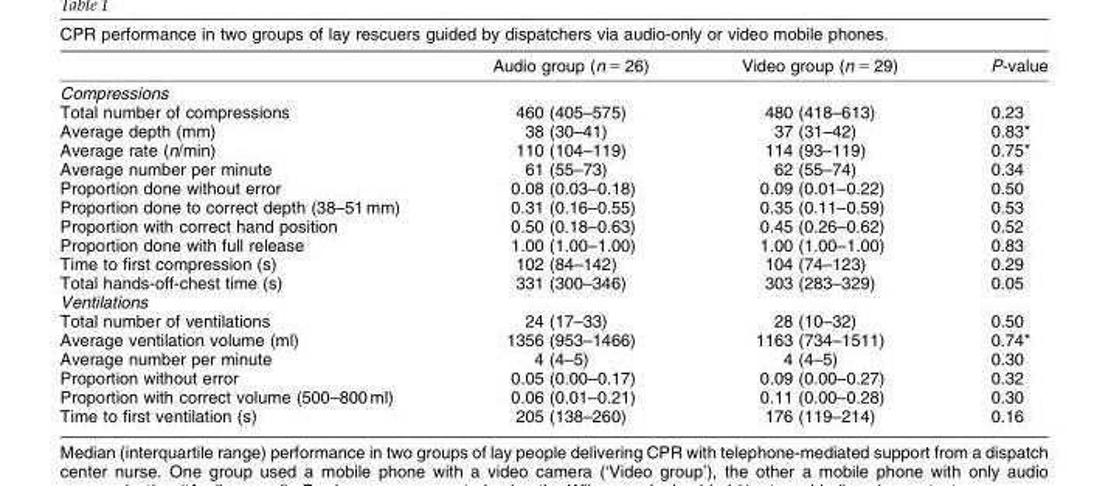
<table><thead><tr><td></td><td>Audio group (n = 26)</td><td>Video group (n = 29)</td><td>P-value</td></tr></thead><tbody><tr><td colspan="4">Compressions</td></tr><tr><td>Total number of compressions</td><td>460 (405–575)</td><td>480 (418–613)</td><td>0.23</td></tr><tr><td>Average depth (mm)</td><td>38 (30–41)</td><td>37 (31–42)</td><td>0.83*</td></tr><tr><td>Average rate (n/min)</td><td>110 (104–119)</td><td>114 (93–119)</td><td>0.75*</td></tr><tr><td>Average number per minute</td><td>61 (55–73)</td><td>62 (55–74)</td><td>0.34</td></tr><tr><td>Proportion done without error</td><td>0.08 (0.03–0.18)</td><td>0.09 (0.01–0.22)</td><td>0.50</td></tr><tr><td>Proportion done to correct depth (38–51 mm)</td><td>0.31 (0.16–0.55)</td><td>0.35 (0.11–0.59)</td><td>0.53</td></tr><tr><td>Proportion with correct hand position</td><td>0.50 (0.18–0.63)</td><td>0.45 (0.26–0.62)</td><td>0.52</td></tr><tr><td>Proportion done with full release</td><td>1.00 (1.00–1.00)</td><td>1.00 (1.00–1.00)</td><td>0.83</td></tr><tr><td>Time to first compression (s)</td><td>102 (84–142)</td><td>104 (74–123)</td><td>0.29</td></tr><tr><td>Total hands-off-chest time (s)</td><td>331 (300–346)</td><td>303 (283–329)</td><td>0.05</td></tr><tr><td colspan="4">Ventilations</td></tr><tr><td>Total number of ventilations</td><td>24 (17–33)</td><td>28 (10–32)</td><td>0.50</td></tr><tr><td>Average ventilation volume (ml)</td><td>1356 (953–1466)</td><td>1163 (734–1511)</td><td>0.74*</td></tr><tr><td>Average number per minute</td><td>4 (4–5)</td><td>4 (4–5)</td><td>0.30</td></tr><tr><td>Proportion without error</td><td>0.05 (0.00–0.17)</td><td>0.09 (0.00–0.27)</td><td>0.32</td></tr><tr><td>Proportion with correct volume (500–800 ml)</td><td>0.06 (0.01–0.21)</td><td>0.11 (0.00–0.28)</td><td>0.30</td></tr><tr><td>Time to first ventilation (s)</td><td>205 (138–260)</td><td>176 (119–214)</td><td>0.16</td></tr></tbody></table>